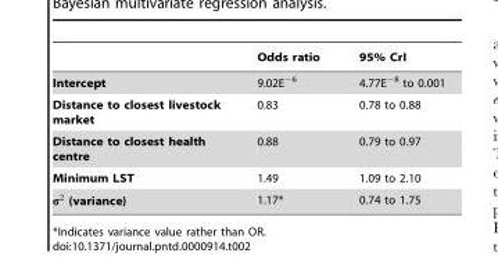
<table><thead><tr><td></td><td>Odds ratio</td><td>95% CrI</td></tr></thead><tbody><tr><td>Intercept</td><td>9.02E<sup>−6</sup></td><td>4.77E<sup>−8</sup> to 0.001</td></tr><tr><td>Distance to closest livestock market</td><td>0.83</td><td>0.78 to 0.88</td></tr><tr><td>Distance to closest health centre</td><td>0.88</td><td>0.79 to 0.97</td></tr><tr><td>Minimum LST</td><td>1.49</td><td>1.09 to 2.10</td></tr><tr><td>s2 (variance)</td><td>1.17*</td><td>0.74 to 1.75</td></tr></tbody></table>